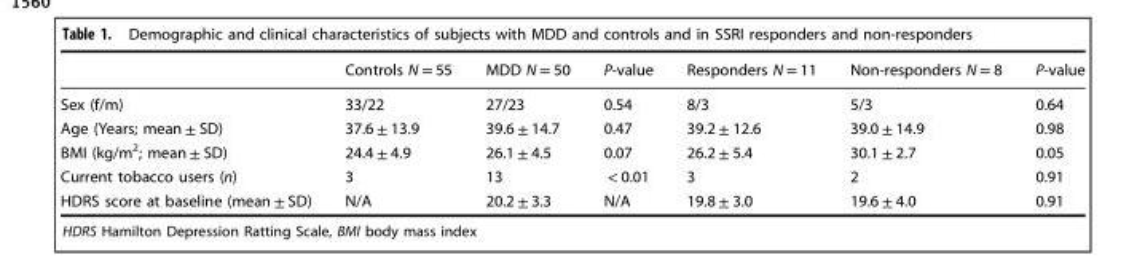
<table><thead><tr><td></td><td>Controls N = 55</td><td>MDD N = 50</td><td>P-value</td><td>Responders N = 11</td><td>Non-responders N = 8</td><td>P-value</td></tr></thead><tbody><tr><td>Sex (f/m)</td><td>33/22</td><td>27/23</td><td>0.54</td><td>8/3</td><td>5/3</td><td>0.64</td></tr><tr><td>Age (Years; mean ± SD)</td><td>37.6 ± 13.9</td><td>39.6 ± 14.7</td><td>0.47</td><td>39.2 ± 12.6</td><td>39.0 ± 14.9</td><td>0.98</td></tr><tr><td>BMI (kg/m<sup>2</sup>; mean ± SD)</td><td>24.4 ± 4.9</td><td>26.1 ± 4.5</td><td>0.07</td><td>26.2 ± 5.4</td><td>30.1 ± 2.7</td><td>0.05</td></tr><tr><td>Current tobacco users (n)</td><td>3</td><td>13</td><td>&lt; 0.01</td><td>3</td><td>2</td><td>0.91</td></tr><tr><td>HDRS score at baseline (mean ± SD)</td><td>N/A</td><td>20.2 ± 3.3</td><td>N/A</td><td>19.8 ± 3.0</td><td>19.6 ± 4.0</td><td>0.91</td></tr></tbody></table>